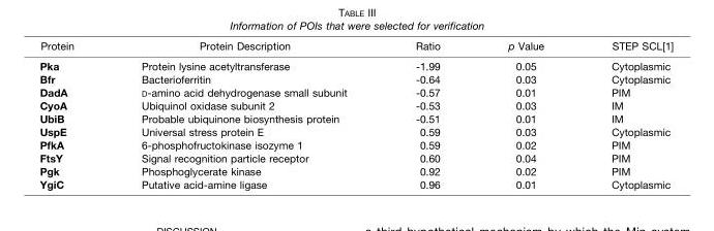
<table><thead><tr><td>Protein</td><td>Protein Description</td><td>Ratio</td><td>p Value</td><td>STEP SCL[1]</td></tr></thead><tbody><tr><td>Pka</td><td>Protein lysine acetyltransferase</td><td>-1.99</td><td>0.05</td><td>Cytoplasmic</td></tr><tr><td>Bfr</td><td>Bacterioferritin</td><td>-0.64</td><td>0.03</td><td>Cytoplasmic</td></tr><tr><td>DadA</td><td>D-amino acid dehydrogenase small subunit</td><td>-0.57</td><td>0.01</td><td>PIM</td></tr><tr><td>CyoA</td><td>Ubiquinol oxidase subunit 2</td><td>-0.53</td><td>0.03</td><td>IM</td></tr><tr><td>UbiB</td><td>Probable ubiquinone biosynthesis protein</td><td>-0.51</td><td>0.01</td><td>IM</td></tr><tr><td>UspE</td><td>Universal stress protein E</td><td>0.59</td><td>0.03</td><td>Cytoplasmic</td></tr><tr><td>PfkA</td><td>6-phosphofructokinase isozyme 1</td><td>0.59</td><td>0.02</td><td>PIM</td></tr><tr><td>FtsY</td><td>Signal recognition particle receptor</td><td>0.60</td><td>0.04</td><td>PIM</td></tr><tr><td>Pgk</td><td>Phosphoglycerate kinase</td><td>0.92</td><td>0.02</td><td>PIM</td></tr><tr><td>YgiC</td><td>Putative acid-amine ligase</td><td>0.96</td><td>0.01</td><td>Cytoplasmic</td></tr></tbody></table>